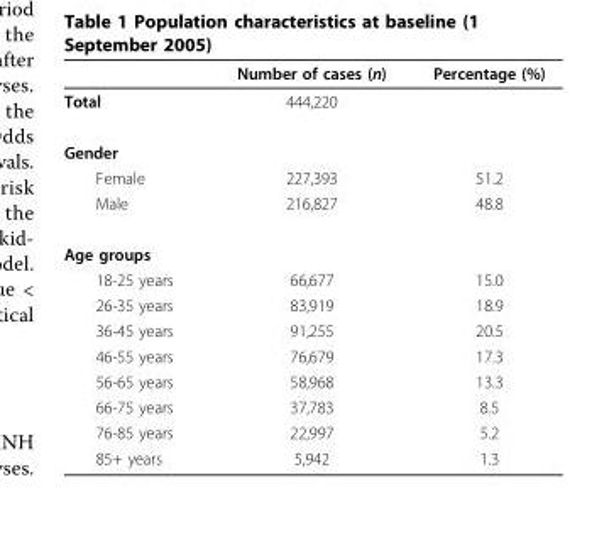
<table><thead><tr><td></td><td>Number of cases (n)</td><td>Percentage (%)</td></tr></thead><tbody><tr><td>Total</td><td>444,220</td><td></td></tr><tr><td colspan="3">Gender</td></tr><tr><td>Female</td><td>227,393</td><td>51.2</td></tr><tr><td>Male</td><td>216,827</td><td>48.8</td></tr><tr><td colspan="3">Age groups</td></tr><tr><td>18-25 years</td><td>66,677</td><td>15.0</td></tr><tr><td>26-35 years</td><td>83,919</td><td>18.9</td></tr><tr><td>36-45 years</td><td>91,255</td><td>20.5</td></tr><tr><td>46-55 years</td><td>76,679</td><td>17.3</td></tr><tr><td>56-65 years</td><td>58,968</td><td>13.3</td></tr><tr><td>66-75 years</td><td>37,783</td><td>8.5</td></tr><tr><td>76-85 years</td><td>22,997</td><td>5.2</td></tr><tr><td>85+ years</td><td>5,942</td><td>1.3</td></tr></tbody></table>